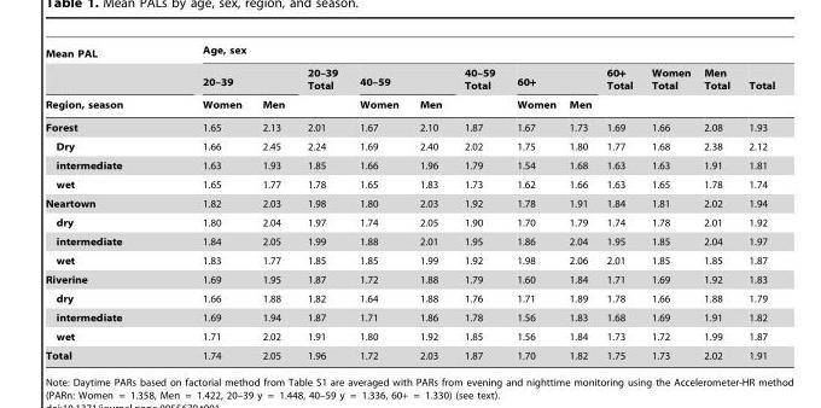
<table><thead><tr><td rowspan="3">Mean PAL Region, season</td><td colspan="12">Age, sex</td></tr><tr><td colspan="2">20–39</td><td rowspan="2">20–39 Total</td><td colspan="2">40–59</td><td rowspan="2">40–59 Total</td><td colspan="2">60+</td><td rowspan="2">60+ Total</td><td rowspan="2">Women Total</td><td rowspan="2">Men Total</td><td rowspan="2">Total</td></tr><tr><td>Women</td><td>Men</td><td>Women</td><td>Men</td><td>Women</td><td>Men</td></tr></thead><tbody><tr><td>Forest</td><td>1.65</td><td>2.13</td><td>2.01</td><td>1.67</td><td>2.10</td><td>1.87</td><td>1.67</td><td>1.73</td><td>1.69</td><td>1.66</td><td>2.08</td><td>1.93</td></tr><tr><td>Dry</td><td>1.66</td><td>2.45</td><td>2.24</td><td>1.69</td><td>2.40</td><td>2.02</td><td>1.75</td><td>1.80</td><td>1.77</td><td>1.68</td><td>2.38</td><td>2.12</td></tr><tr><td>intermediate</td><td>1.63</td><td>1.93</td><td>1.85</td><td>1.66</td><td>1.96</td><td>1.79</td><td>1.54</td><td>1.68</td><td>1.63</td><td>1.63</td><td>1.91</td><td>1.81</td></tr><tr><td>wet</td><td>1.65</td><td>1.77</td><td>1.78</td><td>1.65</td><td>1.83</td><td>1.73</td><td>1.62</td><td>1.66</td><td>1.63</td><td>1.65</td><td>1.78</td><td>1.74</td></tr><tr><td>Neartown</td><td>1.82</td><td>2.03</td><td>1.98</td><td>1.80</td><td>2.03</td><td>1.92</td><td>1.78</td><td>1.91</td><td>1.84</td><td>1.81</td><td>2.02</td><td>1.94</td></tr><tr><td>dry</td><td>1.80</td><td>2.04</td><td>1.97</td><td>1.74</td><td>2.05</td><td>1.90</td><td>1.70</td><td>1.79</td><td>1.74</td><td>1.78</td><td>2.01</td><td>1.92</td></tr><tr><td>intermediate</td><td>1.84</td><td>2.05</td><td>1.99</td><td>1.88</td><td>2.01</td><td>1.95</td><td>1.86</td><td>2.04</td><td>1.95</td><td>1.85</td><td>2.04</td><td>1.97</td></tr><tr><td>wet</td><td>1.83</td><td>1.77</td><td>1.85</td><td>1.85</td><td>1.99</td><td>1.92</td><td>1.98</td><td>2.06</td><td>2.01</td><td>1.85</td><td>1.85</td><td>1.87</td></tr><tr><td>Riverine</td><td>1.69</td><td>1.95</td><td>1.87</td><td>1.72</td><td>1.88</td><td>1.79</td><td>1.60</td><td>1.84</td><td>1.71</td><td>1.69</td><td>1.92</td><td>1.83</td></tr><tr><td>dry</td><td>1.66</td><td>1.88</td><td>1.82</td><td>1.64</td><td>1.88</td><td>1.76</td><td>1.71</td><td>1.89</td><td>1.78</td><td>1.66</td><td>1.88</td><td>1.79</td></tr><tr><td>intermediate</td><td>1.69</td><td>1.94</td><td>1.87</td><td>1.71</td><td>1.86</td><td>1.78</td><td>1.56</td><td>1.83</td><td>1.68</td><td>1.69</td><td>1.91</td><td>1.82</td></tr><tr><td>wet</td><td>1.71</td><td>2.02</td><td>1.91</td><td>1.80</td><td>1.92</td><td>1.85</td><td>1.56</td><td>1.84</td><td>1.73</td><td>1.72</td><td>1.99</td><td>1.87</td></tr><tr><td>Total</td><td>1.74</td><td>2.05</td><td>1.96</td><td>1.72</td><td>2.03</td><td>1.87</td><td>1.70</td><td>1.82</td><td>1.75</td><td>1.73</td><td>2.02</td><td>1.91</td></tr></tbody></table>